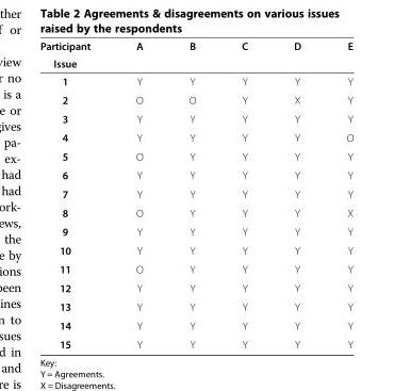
<table><thead><tr><td rowspan="2">Participant Issue</td><td rowspan="2">A</td><td rowspan="2">B</td><td rowspan="2">C</td><td rowspan="2">D</td><td rowspan="2">E</td></tr><tr></tr></thead><tbody><tr><td>1</td><td>Y</td><td>Y</td><td>Y</td><td>Y</td><td>Y</td></tr><tr><td>2</td><td>O</td><td>O</td><td>Y</td><td>X</td><td>Y</td></tr><tr><td>3</td><td>Y</td><td>Y</td><td>Y</td><td>Y</td><td>Y</td></tr><tr><td>4</td><td>Y</td><td>Y</td><td>Y</td><td>Y</td><td>O</td></tr><tr><td>5</td><td>O</td><td>Y</td><td>Y</td><td>Y</td><td>Y</td></tr><tr><td>6</td><td>Y</td><td>Y</td><td>Y</td><td>Y</td><td>Y</td></tr><tr><td>7</td><td>Y</td><td>Y</td><td>Y</td><td>Y</td><td>Y</td></tr><tr><td>8</td><td>O</td><td>Y</td><td>Y</td><td>Y</td><td>X</td></tr><tr><td>9</td><td>Y</td><td>Y</td><td>Y</td><td>Y</td><td>Y</td></tr><tr><td>10</td><td>Y</td><td>Y</td><td>Y</td><td>Y</td><td>Y</td></tr><tr><td>11</td><td>O</td><td>Y</td><td>Y</td><td>Y</td><td>Y</td></tr><tr><td>12</td><td>Y</td><td>Y</td><td>Y</td><td>Y</td><td>Y</td></tr><tr><td>13</td><td>Y</td><td>Y</td><td>Y</td><td>Y</td><td>Y</td></tr><tr><td>14</td><td>Y</td><td>Y</td><td>Y</td><td>Y</td><td>Y</td></tr><tr><td>15</td><td>Y</td><td>Y</td><td>Y</td><td>Y</td><td>Y</td></tr></tbody></table>